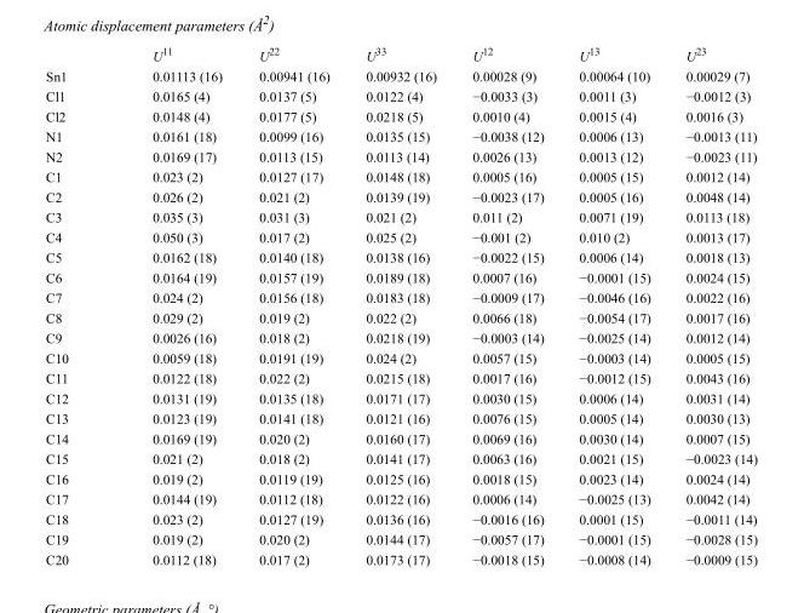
<table><thead><tr><td></td><td>U<sup>11</sup></td><td>U<sup>22</sup></td><td>U<sup>33</sup></td><td>U<sup>12</sup></td><td>U<sup>13</sup></td><td>U<sup>23</sup></td></tr></thead><tbody><tr><td>Sn1</td><td>0.01113 (16)</td><td>0.00941 (16)</td><td>0.00932 (16)</td><td>0.00028 (9)</td><td>0.00064 (10)</td><td>0.00029 (7)</td></tr><tr><td>Cl1</td><td>0.0165 (4)</td><td>0.0137 (5)</td><td>0.0122 (4)</td><td>−0.0033 (3)</td><td>0.0011 (3)</td><td>−0.0012 (3)</td></tr><tr><td>Cl2</td><td>0.0148 (4)</td><td>0.0177 (5)</td><td>0.0218 (5)</td><td>0.0010 (4)</td><td>0.0015 (4)</td><td>0.0016 (3)</td></tr><tr><td>N1</td><td>0.0161 (18)</td><td>0.0099 (16)</td><td>0.0135 (15)</td><td>−0.0038 (12)</td><td>0.0006 (13)</td><td>−0.0013 (11)</td></tr><tr><td>N2</td><td>0.0169 (17)</td><td>0.0113 (15)</td><td>0.0113 (14)</td><td>0.0026 (13)</td><td>0.0013 (12)</td><td>−0.0023 (11)</td></tr><tr><td>C1</td><td>0.023 (2)</td><td>0.0127 (17)</td><td>0.0148 (18)</td><td>0.0005 (16)</td><td>0.0005 (15)</td><td>0.0012 (14)</td></tr><tr><td>C2</td><td>0.026 (2)</td><td>0.021 (2)</td><td>0.0139 (19)</td><td>−0.0023 (17)</td><td>0.0005 (16)</td><td>0.0048 (14)</td></tr><tr><td>C3</td><td>0.035 (3)</td><td>0.031 (3)</td><td>0.021 (2)</td><td>0.011 (2)</td><td>0.0071 (19)</td><td>0.0113 (18)</td></tr><tr><td>C4</td><td>0.050 (3)</td><td>0.017 (2)</td><td>0.025 (2)</td><td>−0.001 (2)</td><td>0.010 (2)</td><td>0.0013 (17)</td></tr><tr><td>C5</td><td>0.0162 (18)</td><td>0.0140 (18)</td><td>0.0138 (16)</td><td>−0.0022 (15)</td><td>0.0006 (14)</td><td>0.0018 (13)</td></tr><tr><td>C6</td><td>0.0164 (19)</td><td>0.0157 (19)</td><td>0.0189 (18)</td><td>0.0007 (16)</td><td>−0.0001 (15)</td><td>0.0024 (15)</td></tr><tr><td>C7</td><td>0.024 (2)</td><td>0.0156 (18)</td><td>0.0183 (18)</td><td>−0.0009 (17)</td><td>−0.0046 (16)</td><td>0.0022 (16)</td></tr><tr><td>C8</td><td>0.029 (2)</td><td>0.019 (2)</td><td>0.022 (2)</td><td>0.0066 (18)</td><td>−0.0054 (17)</td><td>0.0017 (16)</td></tr><tr><td>C9</td><td>0.0026 (16)</td><td>0.018 (2)</td><td>0.0218 (19)</td><td>−0.0003 (14)</td><td>−0.0025 (14)</td><td>0.0012 (14)</td></tr><tr><td>C10</td><td>0.0059 (18)</td><td>0.0191 (19)</td><td>0.024 (2)</td><td>0.0057 (15)</td><td>−0.0003 (14)</td><td>0.0005 (15)</td></tr><tr><td>C11</td><td>0.0122 (18)</td><td>0.022 (2)</td><td>0.0215 (18)</td><td>0.0017 (16)</td><td>−0.0012 (15)</td><td>0.0043 (16)</td></tr><tr><td>C12</td><td>0.0131 (19)</td><td>0.0135 (18)</td><td>0.0171 (17)</td><td>0.0030 (15)</td><td>0.0006 (14)</td><td>0.0031 (14)</td></tr><tr><td>C13</td><td>0.0123 (19)</td><td>0.0141 (18)</td><td>0.0121 (16)</td><td>0.0076 (15)</td><td>0.0005 (14)</td><td>0.0030 (13)</td></tr><tr><td>C14</td><td>0.0169 (19)</td><td>0.020 (2)</td><td>0.0160 (17)</td><td>0.0069 (16)</td><td>0.0030 (14)</td><td>0.0007 (15)</td></tr><tr><td>C15</td><td>0.021 (2)</td><td>0.018 (2)</td><td>0.0141 (17)</td><td>0.0063 (16)</td><td>0.0021 (15)</td><td>−0.0023 (14)</td></tr><tr><td>C16</td><td>0.019 (2)</td><td>0.0119 (19)</td><td>0.0125 (16)</td><td>0.0018 (15)</td><td>0.0023 (14)</td><td>0.0024 (14)</td></tr><tr><td>C17</td><td>0.0144 (19)</td><td>0.0112 (18)</td><td>0.0122 (16)</td><td>0.0006 (14)</td><td>−0.0025 (13)</td><td>0.0042 (14)</td></tr><tr><td>C18</td><td>0.023 (2)</td><td>0.0127 (19)</td><td>0.0136 (16)</td><td>−0.0016 (16)</td><td>0.0001 (15)</td><td>−0.0011 (14)</td></tr><tr><td>C19</td><td>0.019 (2)</td><td>0.020 (2)</td><td>0.0144 (17)</td><td>−0.0057 (17)</td><td>−0.0001 (15)</td><td>−0.0028 (15)</td></tr><tr><td>C20</td><td>0.0112 (18)</td><td>0.017 (2)</td><td>0.0173 (17)</td><td>−0.0018 (15)</td><td>−0.0008 (14)</td><td>−0.0009 (15)</td></tr></tbody></table>